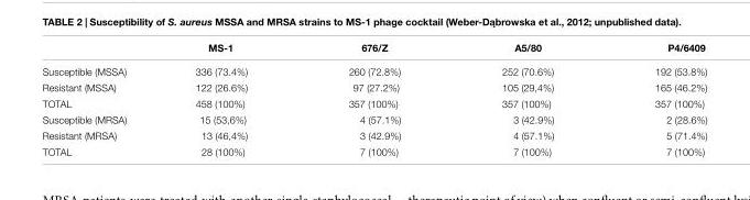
<table><thead><tr><td></td><td>MS-1</td><td>676/Z</td><td>A5/80</td><td>P4/6409</td></tr></thead><tbody><tr><td>Susceptible (MSSA)</td><td>336 (73.4%)</td><td>260 (72.8%)</td><td>252 (70.6%)</td><td>192 (53.8%)</td></tr><tr><td>Resistant (MSSA)</td><td>122 (26.6%)</td><td>97 (27.2%)</td><td>105 (29,4%)</td><td>165 (46.2%)</td></tr><tr><td>TOTAL</td><td>458 (100%)</td><td>357 (100%)</td><td>357 (100%)</td><td>357 (100%)</td></tr><tr><td>Susceptible (MRSA)</td><td>15 (53,6%)</td><td>4 (57.1%)</td><td>3 (42.9%)</td><td>2 (28.6%)</td></tr><tr><td>Resistant (MRSA)</td><td>13 (46,4%)</td><td>3 (42.9%)</td><td>4 (57.1%)</td><td>5 (71.4%)</td></tr><tr><td>TOTAL</td><td>28 (100%)</td><td>7 (100%)</td><td>7 (100%)</td><td>7 (100%)</td></tr></tbody></table>